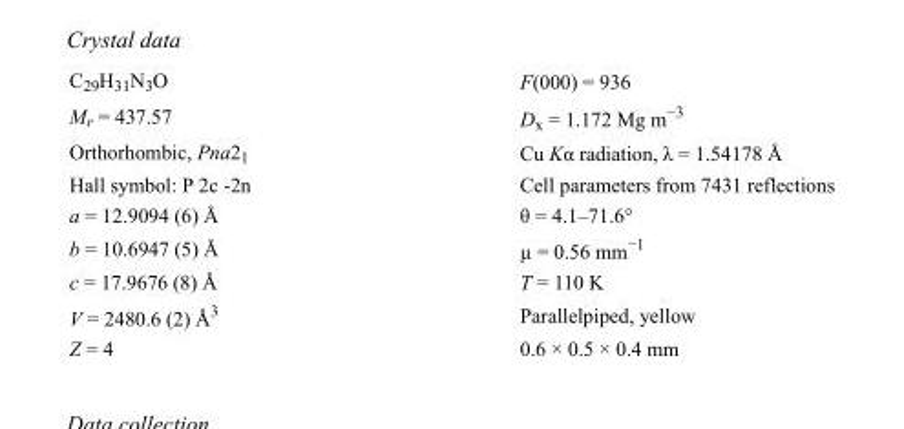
<table><tbody><tr><td>C<sub>29</sub>H<sub>31</sub>N<sub>3</sub>O</td><td>F(000) = 936</td></tr><tr><td>M<sub>r</sub> = 437.57</td><td>D<sub>x</sub> = 1.172 Mg m<sup>−3</sup></td></tr><tr><td>Orthorhombic, Pna2<sub>1</sub></td><td>Cu Kα radiation, λ = 1.54178 Å</td></tr><tr><td>Hall symbol: P 2c -2n</td><td>Cell parameters from 7431 reflections</td></tr><tr><td>a = 12.9094 (6) Å</td><td>θ = 4.1–71.6°</td></tr><tr><td>b = 10.6947 (5) Å</td><td>µ = 0.56 mm<sup>−1</sup></td></tr><tr><td>c = 17.9676 (8) Å</td><td>T = 110 K</td></tr><tr><td>V = 2480.6 (2) Å<sup>3</sup></td><td>Parallelpiped, yellow</td></tr><tr><td>Z = 4</td><td>0.6 × 0.5 × 0.4 mm</td></tr></tbody></table>